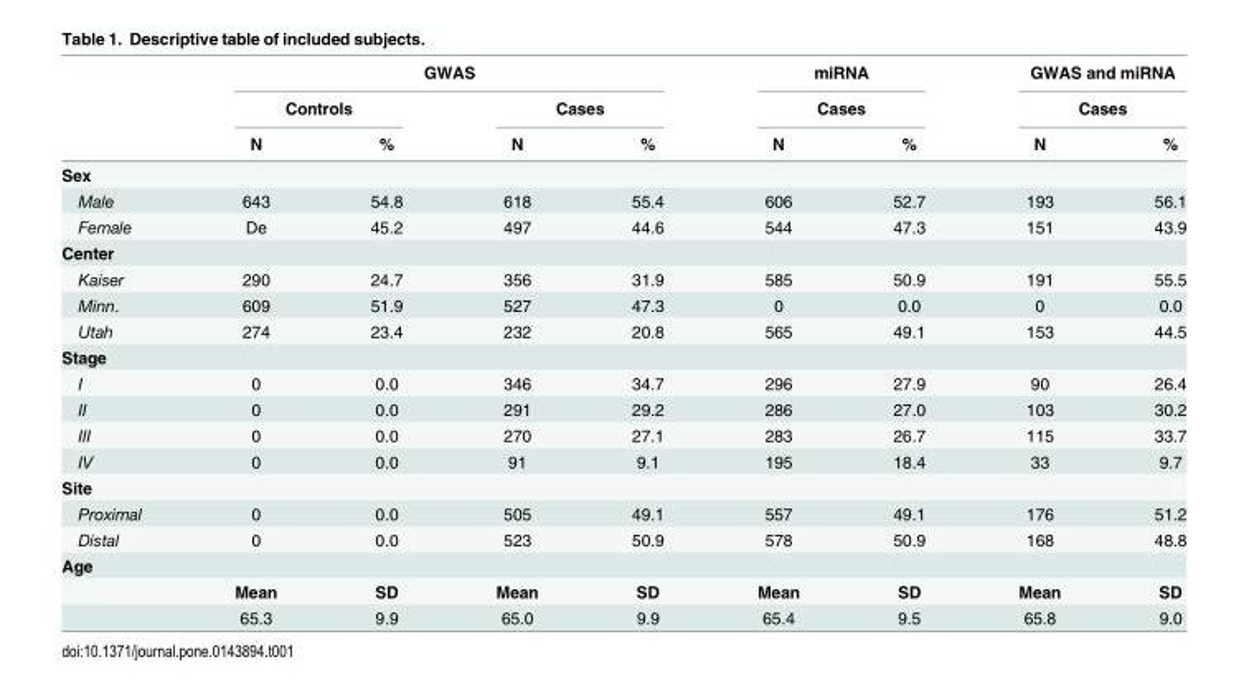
<table><thead><tr><td rowspan="3"></td><td colspan="4">GWAS</td><td rowspan="2" colspan="2">miRNA Cases</td><td rowspan="2" colspan="2">GWAS and miRNA Cases</td></tr><tr><td colspan="2">Controls</td><td colspan="2">Cases</td></tr><tr><td>N</td><td>%</td><td>N</td><td>%</td><td>N</td><td>%</td><td>N</td><td>%</td></tr></thead><tbody><tr><td colspan="9">Sex</td></tr><tr><td>Male</td><td>643</td><td>54.8</td><td>618</td><td>55.4</td><td>606</td><td>52.7</td><td>193</td><td>56.1</td></tr><tr><td>Female</td><td>De</td><td>45.2</td><td>497</td><td>44.6</td><td>544</td><td>47.3</td><td>151</td><td>43.9</td></tr><tr><td colspan="9">Center</td></tr><tr><td>Kaiser</td><td>290</td><td>24.7</td><td>356</td><td>31.9</td><td>585</td><td>50.9</td><td>191</td><td>55.5</td></tr><tr><td>Minn.</td><td>609</td><td>51.9</td><td>527</td><td>47.3</td><td>0</td><td>0.0</td><td>0</td><td>0.0</td></tr><tr><td>Utah</td><td>274</td><td>23.4</td><td>232</td><td>20.8</td><td>565</td><td>49.1</td><td>153</td><td>44.5</td></tr><tr><td colspan="9">Stage</td></tr><tr><td>I</td><td>0</td><td>0.0</td><td>346</td><td>34.7</td><td>296</td><td>27.9</td><td>90</td><td>26.4</td></tr><tr><td>II</td><td>0</td><td>0.0</td><td>291</td><td>29.2</td><td>286</td><td>27.0</td><td>103</td><td>30.2</td></tr><tr><td>III</td><td>0</td><td>0.0</td><td>270</td><td>27.1</td><td>283</td><td>26.7</td><td>115</td><td>33.7</td></tr><tr><td>IV</td><td>0</td><td>0.0</td><td>91</td><td>9.1</td><td>195</td><td>18.4</td><td>33</td><td>9.7</td></tr><tr><td colspan="9">Site</td></tr><tr><td>Proximal</td><td>0</td><td>0.0</td><td>505</td><td>49.1</td><td>557</td><td>49.1</td><td>176</td><td>51.2</td></tr><tr><td>Distal</td><td>0</td><td>0.0</td><td>523</td><td>50.9</td><td>578</td><td>50.9</td><td>168</td><td>48.8</td></tr><tr><td colspan="9">Age</td></tr><tr><td></td><td>Mean</td><td>SD</td><td>Mean</td><td>SD</td><td>Mean</td><td>SD</td><td>Mean</td><td>SD</td></tr><tr><td></td><td>65.3</td><td>9.9</td><td>65.0</td><td>9.9</td><td>65.4</td><td>9.5</td><td>65.8</td><td>9.0</td></tr></tbody></table>